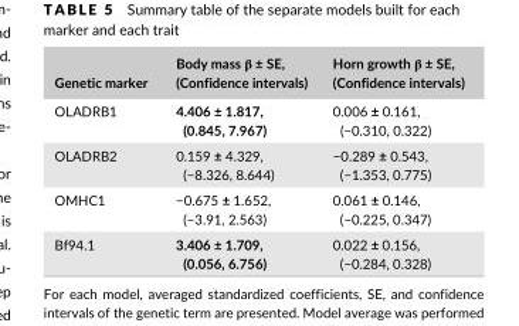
<table><thead><tr><td>Genetic marker</td><td>Body mass β ± SE, (Confidence intervals)</td><td>Horn growth β ± SE, (Confidence intervals)</td></tr></thead><tbody><tr><td>OLADRB1</td><td>4.406 ± 1.817, (0.845, 7.967)</td><td>0.006 ± 0.161, (−0.310, 0.322)</td></tr><tr><td>OLADRB2</td><td>0.159 ± 4.329, (−8.326, 8.644)</td><td>−0.289 ± 0.543, (−1.353, 0.775)</td></tr><tr><td>OMHC1</td><td>−0.675 ± 1.652, (−3.91, 2.563)</td><td>0.061 ± 0.146, (−0.225, 0.347)</td></tr><tr><td>Bf94.1</td><td>3.406 ± 1.709, (0.056, 6.756)</td><td>0.022 ± 0.156, (−0.284, 0.328)</td></tr></tbody></table>